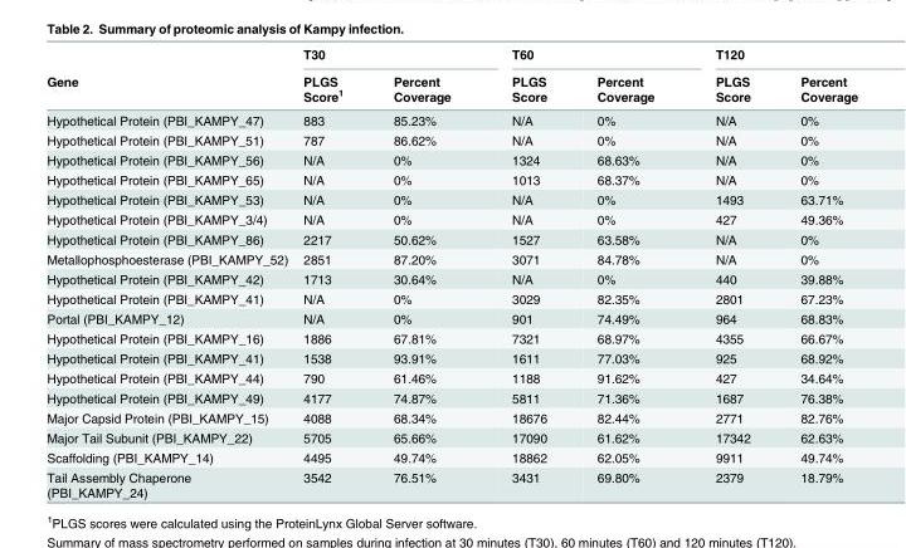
<table><thead><tr><td rowspan="2">Gene</td><td colspan="2">T30</td><td colspan="2">T60</td><td colspan="2">T120</td></tr><tr><td>PLGS Score<sup>1</sup></td><td>Percent Coverage</td><td>PLGS Score</td><td>Percent Coverage</td><td>PLGS Score</td><td>Percent Coverage</td></tr></thead><tbody><tr><td>Hypothetical Protein (PBI_KAMPY_47)</td><td>883</td><td>85.23%</td><td>N/A</td><td>0%</td><td>N/A</td><td>0%</td></tr><tr><td>Hypothetical Protein (PBI_KAMPY_51)</td><td>787</td><td>86.62%</td><td>N/A</td><td>0%</td><td>N/A</td><td>0%</td></tr><tr><td>Hypothetical Protein (PBI_KAMPY_56)</td><td>N/A</td><td>0%</td><td>1324</td><td>68.63%</td><td>N/A</td><td>0%</td></tr><tr><td>Hypothetical Protein (PBI_KAMPY_65)</td><td>N/A</td><td>0%</td><td>1013</td><td>68.37%</td><td>N/A</td><td>0%</td></tr><tr><td>Hypothetical Protein (PBI_KAMPY_53)</td><td>N/A</td><td>0%</td><td>N/A</td><td>0%</td><td>1493</td><td>63.71%</td></tr><tr><td>Hypothetical Protein (PBI_KAMPY_3/4)</td><td>N/A</td><td>0%</td><td>N/A</td><td>0%</td><td>427</td><td>49.36%</td></tr><tr><td>Hypothetical Protein (PBI_KAMPY_86)</td><td>2217</td><td>50.62%</td><td>1527</td><td>63.58%</td><td>N/A</td><td>0%</td></tr><tr><td>Metallophosphoesterase (PBI_KAMPY_52)</td><td>2851</td><td>87.20%</td><td>3071</td><td>84.78%</td><td>N/A</td><td>0%</td></tr><tr><td>Hypothetical Protein (PBI_KAMPY_42)</td><td>1713</td><td>30.64%</td><td>N/A</td><td>0%</td><td>440</td><td>39.88%</td></tr><tr><td>Hypothetical Protein (PBI_KAMPY_41)</td><td>N/A</td><td>0%</td><td>3029</td><td>82.35%</td><td>2801</td><td>67.23%</td></tr><tr><td>Portal (PBI_KAMPY_12)</td><td>N/A</td><td>0%</td><td>901</td><td>74.49%</td><td>964</td><td>68.83%</td></tr><tr><td>Hypothetical Protein (PBI_KAMPY_16)</td><td>1886</td><td>67.81%</td><td>7321</td><td>68.97%</td><td>4355</td><td>66.67%</td></tr><tr><td>Hypothetical Protein (PBI_KAMPY_41)</td><td>1538</td><td>93.91%</td><td>1611</td><td>77.03%</td><td>925</td><td>68.92%</td></tr><tr><td>Hypothetical Protein (PBI_KAMPY_44)</td><td>790</td><td>61.46%</td><td>1188</td><td>91.62%</td><td>427</td><td>34.64%</td></tr><tr><td>Hypothetical Protein (PBI_KAMPY_49)</td><td>4177</td><td>74.87%</td><td>5811</td><td>71.36%</td><td>1687</td><td>76.38%</td></tr><tr><td>Major Capsid Protein (PBI_KAMPY_15)</td><td>4088</td><td>68.34%</td><td>18676</td><td>82.44%</td><td>2771</td><td>82.76%</td></tr><tr><td>Major Tail Subunit (PBI_KAMPY_22)</td><td>5705</td><td>65.66%</td><td>17090</td><td>61.62%</td><td>17342</td><td>62.63%</td></tr><tr><td>Scaffolding (PBI_KAMPY_14)</td><td>4495</td><td>49.74%</td><td>18862</td><td>62.05%</td><td>9911</td><td>49.74%</td></tr><tr><td>Tail Assembly Chaperone (PBI_KAMPY_24)</td><td>3542</td><td>76.51%</td><td>3431</td><td>69.80%</td><td>2379</td><td>18.79%</td></tr></tbody></table>